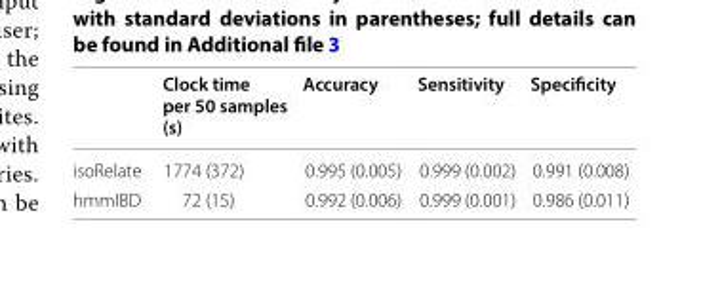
<table><thead><tr><td></td><td>Clock time per 50 samples (s)</td><td>Accuracy</td><td>Sensitivity</td><td>Specificity</td></tr></thead><tbody><tr><td>isoRelate</td><td>1774 (372)</td><td>0.995 (0.005)</td><td>0.999 (0.002)</td><td>0.991 (0.008)</td></tr><tr><td>hmmIBD</td><td>72 (15)</td><td>0.992 (0.006)</td><td>0.999 (0.001)</td><td>0.986 (0.011)</td></tr></tbody></table>